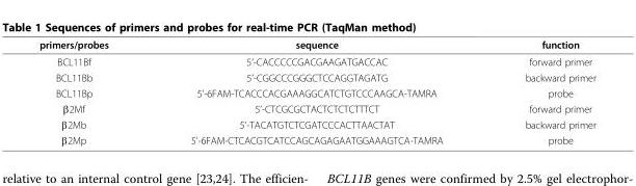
<table><thead><tr><td>primers/probes</td><td>sequence</td><td>function</td></tr></thead><tbody><tr><td>BCL11Bf</td><td>5’-CACCCCCGACGAAGATGACCAC</td><td>forward primer</td></tr><tr><td>BCL11Bb</td><td>5’-CGGCCCGGGCTCCAGGTAGATG</td><td>backward primer</td></tr><tr><td>BCL11Bp</td><td>5’-6FAM-TCACCCACGAAAGGCATCTGTCCCAAGCA-TAMRA</td><td>probe</td></tr><tr><td>β2Mf</td><td>5’-CTCGCGCTACTCTCTCTTTCT</td><td>forward primer</td></tr><tr><td>β2Mb</td><td>5’-TACATGTCTCGATCCCACTTAACTAT</td><td>backward primer</td></tr><tr><td>β2Mp</td><td>5’-6FAM-CTCACGTCATCCAGCAGAGAATGGAAAGTCA-TAMRA</td><td>probe</td></tr></tbody></table>